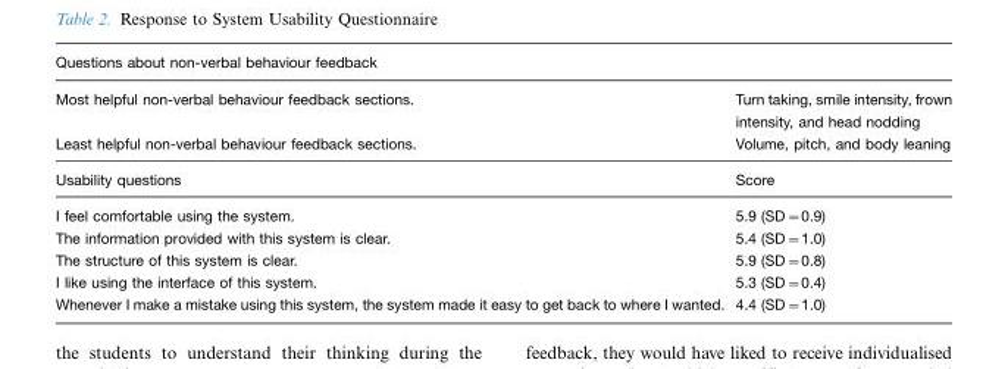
<table><thead><tr><td>Questions about non-verbal behaviour feedback</td><td></td></tr></thead><tbody><tr><td>Most helpful non-verbal behaviour feedback sections.</td><td>Turn taking, smile intensity, frown intensity, and head nodding</td></tr><tr><td>Least helpful non-verbal behaviour feedback sections.</td><td>Volume, pitch, and body leaning</td></tr><tr><td>Usability questions</td><td>Score</td></tr><tr><td>I feel comfortable using the system.</td><td>5.9 (SD=0.9)</td></tr><tr><td>The information provided with this system is clear.</td><td>5.4 (SD=1.0)</td></tr><tr><td>The structure of this system is clear.</td><td>5.9 (SD=0.8)</td></tr><tr><td>I like using the interface of this system.</td><td>5.3 (SD=0.4)</td></tr><tr><td>Whenever I make a mistake using this system, the system made it easy to get back to where I wanted.</td><td>4.4 (SD=1.0)</td></tr></tbody></table>